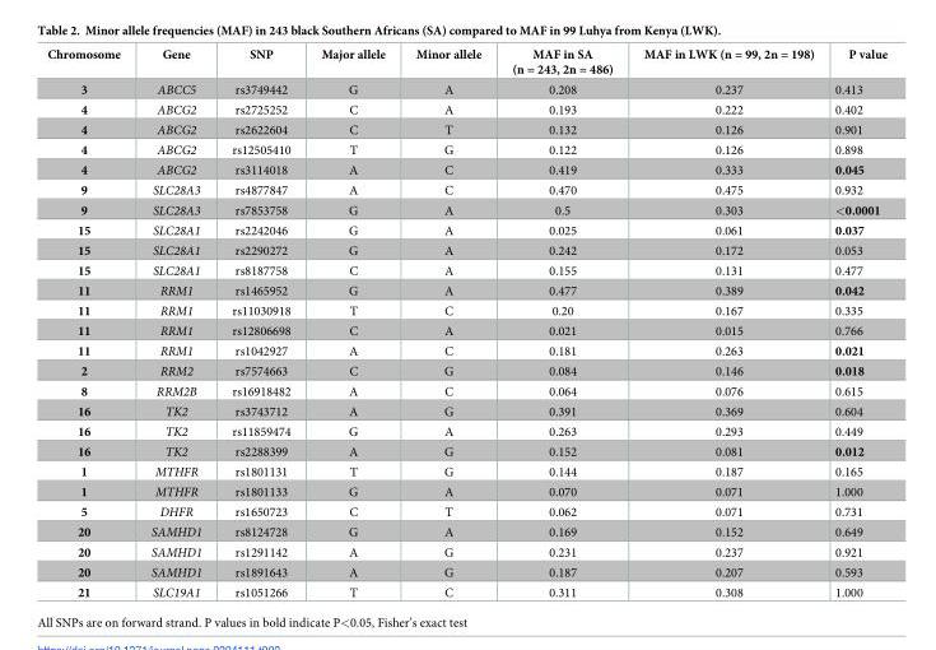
<table><thead><tr><td>Chromosome</td><td>Gene</td><td>SNP</td><td>Major allele</td><td>Minor allele</td><td>MAF in SA (n = 243, 2n = 486)</td><td>MAF in LWK (n = 99, 2n = 198)</td><td>P value</td></tr></thead><tbody><tr><td>3</td><td>ABCC5</td><td>rs3749442</td><td>G</td><td>A</td><td>0.208</td><td>0.237</td><td>0.413</td></tr><tr><td>4</td><td>ABCG2</td><td>rs2725252</td><td>C</td><td>A</td><td>0.193</td><td>0.222</td><td>0.402</td></tr><tr><td>4</td><td>ABCG2</td><td>rs2622604</td><td>C</td><td>T</td><td>0.132</td><td>0.126</td><td>0.901</td></tr><tr><td>4</td><td>ABCG2</td><td>rs12505410</td><td>T</td><td>G</td><td>0.122</td><td>0.126</td><td>0.898</td></tr><tr><td>4</td><td>ABCG2</td><td>rs3114018</td><td>A</td><td>C</td><td>0.419</td><td>0.333</td><td>0.045</td></tr><tr><td>9</td><td>SLC28A3</td><td>rs4877847</td><td>A</td><td>C</td><td>0.470</td><td>0.475</td><td>0.932</td></tr><tr><td>9</td><td>SLC28A3</td><td>rs7853758</td><td>G</td><td>A</td><td>0.5</td><td>0.303</td><td>&lt;0.0001</td></tr><tr><td>15</td><td>SLC28A1</td><td>rs2242046</td><td>G</td><td>A</td><td>0.025</td><td>0.061</td><td>0.037</td></tr><tr><td>15</td><td>SLC28A1</td><td>rs2290272</td><td>G</td><td>A</td><td>0.242</td><td>0.172</td><td>0.053</td></tr><tr><td>15</td><td>SLC28A1</td><td>rs8187758</td><td>C</td><td>A</td><td>0.155</td><td>0.131</td><td>0.477</td></tr><tr><td>11</td><td>RRM1</td><td>rs1465952</td><td>G</td><td>A</td><td>0.477</td><td>0.389</td><td>0.042</td></tr><tr><td>11</td><td>RRM1</td><td>rs11030918</td><td>T</td><td>C</td><td>0.20</td><td>0.167</td><td>0.335</td></tr><tr><td>11</td><td>RRM1</td><td>rs12806698</td><td>C</td><td>A</td><td>0.021</td><td>0.015</td><td>0.766</td></tr><tr><td>11</td><td>RRM1</td><td>rs1042927</td><td>A</td><td>C</td><td>0.181</td><td>0.263</td><td>0.021</td></tr><tr><td>2</td><td>RRM2</td><td>rs7574663</td><td>C</td><td>G</td><td>0.084</td><td>0.146</td><td>0.018</td></tr><tr><td>8</td><td>RRM2B</td><td>rs16918482</td><td>A</td><td>C</td><td>0.064</td><td>0.076</td><td>0.615</td></tr><tr><td>16</td><td>TK2</td><td>rs3743712</td><td>A</td><td>G</td><td>0.391</td><td>0.369</td><td>0.604</td></tr><tr><td>16</td><td>TK2</td><td>rs11859474</td><td>G</td><td>A</td><td>0.263</td><td>0.293</td><td>0.449</td></tr><tr><td>16</td><td>TK2</td><td>rs2288399</td><td>A</td><td>G</td><td>0.152</td><td>0.081</td><td>0.012</td></tr><tr><td>1</td><td>MTHFR</td><td>rs1801131</td><td>T</td><td>G</td><td>0.144</td><td>0.187</td><td>0.165</td></tr><tr><td>1</td><td>MTHFR</td><td>rs1801133</td><td>G</td><td>A</td><td>0.070</td><td>0.071</td><td>1.000</td></tr><tr><td>5</td><td>DHFR</td><td>rs1650723</td><td>C</td><td>T</td><td>0.062</td><td>0.071</td><td>0.731</td></tr><tr><td>20</td><td>SAMHD1</td><td>rs8124728</td><td>G</td><td>A</td><td>0.169</td><td>0.152</td><td>0.649</td></tr><tr><td>20</td><td>SAMHD1</td><td>rs1291142</td><td>A</td><td>G</td><td>0.231</td><td>0.237</td><td>0.921</td></tr><tr><td>20</td><td>SAMHD1</td><td>rs1891643</td><td>A</td><td>G</td><td>0.187</td><td>0.207</td><td>0.593</td></tr><tr><td>21</td><td>SLC19A1</td><td>rs1051266</td><td>T</td><td>C</td><td>0.311</td><td>0.308</td><td>1.000</td></tr></tbody></table>